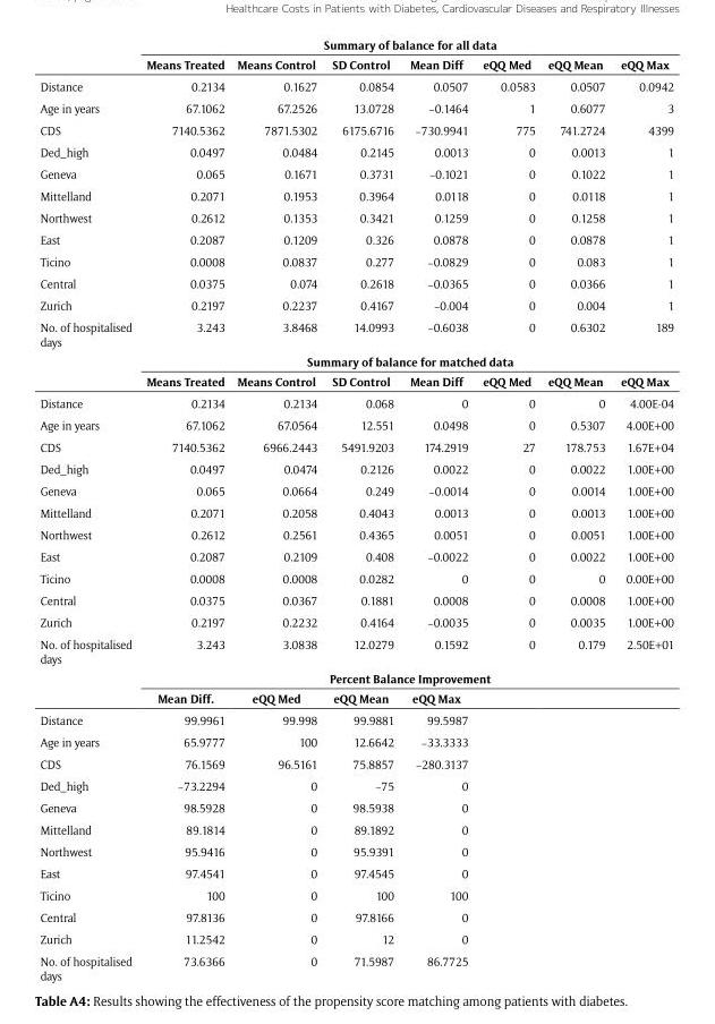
<table><thead><tr><td rowspan="2"></td><td colspan="7">Summary of balance for all data</td></tr><tr><td>Means Treated</td><td>Means Control</td><td>SD Control</td><td>Mean Diff</td><td>eQQ Med</td><td>eQQ Mean</td><td>eQQ Max</td></tr></thead><tbody><tr><td>Distance</td><td>0.2134</td><td>0.1627</td><td>0.0854</td><td>0.0507</td><td>0.0583</td><td>0.0507</td><td>0.0942</td></tr><tr><td>Age in years</td><td>67.1062</td><td>67.2526</td><td>13.0728</td><td>−0.1464</td><td>1</td><td>0.6077</td><td>3</td></tr><tr><td>CDS</td><td>7140.5362</td><td>7871.5302</td><td>6175.6716</td><td>−730.9941</td><td>775</td><td>741.2724</td><td>4399</td></tr><tr><td>Ded_high</td><td>0.0497</td><td>0.0484</td><td>0.2145</td><td>0.0013</td><td>0</td><td>0.0013</td><td>1</td></tr><tr><td>Geneva</td><td>0.065</td><td>0.1671</td><td>0.3731</td><td>−0.1021</td><td>0</td><td>0.1022</td><td>1</td></tr><tr><td>Mittelland</td><td>0.2071</td><td>0.1953</td><td>0.3964</td><td>0.0118</td><td>0</td><td>0.0118</td><td>1</td></tr><tr><td>Northwest</td><td>0.2612</td><td>0.1353</td><td>0.3421</td><td>0.1259</td><td>0</td><td>0.1258</td><td>1</td></tr><tr><td>East</td><td>0.2087</td><td>0.1209</td><td>0.326</td><td>0.0878</td><td>0</td><td>0.0878</td><td>1</td></tr><tr><td>Ticino</td><td>0.0008</td><td>0.0837</td><td>0.277</td><td>−0.0829</td><td>0</td><td>0.083</td><td>1</td></tr><tr><td>Central</td><td>0.0375</td><td>0.074</td><td>0.2618</td><td>−0.0365</td><td>0</td><td>0.0366</td><td>1</td></tr><tr><td>Zurich</td><td>0.2197</td><td>0.2237</td><td>0.4167</td><td>−0.004</td><td>0</td><td>0.004</td><td>1</td></tr><tr><td rowspan="3">No. of hospitalised days</td><td>3.243</td><td>3.8468</td><td>14.0993</td><td>−0.6038</td><td>0</td><td>0.6302</td><td>189</td></tr><tr><td colspan="7">Summary of balance for matched data</td></tr><tr><td>Means Treated</td><td>Means Control</td><td>SD Control</td><td>Mean Diff</td><td>eQQ Med</td><td>eQQ Mean</td><td>eQQ Max</td></tr><tr><td>Distance</td><td>0.2134</td><td>0.2134</td><td>0.068</td><td>0</td><td>0</td><td>0</td><td>4.00E-04</td></tr><tr><td>Age in years</td><td>67.1062</td><td>67.0564</td><td>12.551</td><td>0.0498</td><td>0</td><td>0.5307</td><td>4.00E+00</td></tr><tr><td>CDS</td><td>7140.5362</td><td>6966.2443</td><td>5491.9203</td><td>174.2919</td><td>27</td><td>178.753</td><td>1.67E+04</td></tr><tr><td>Ded_high</td><td>0.0497</td><td>0.0474</td><td>0.2126</td><td>0.0022</td><td>0</td><td>0.0022</td><td>1.00E+00</td></tr><tr><td>Geneva</td><td>0.065</td><td>0.0664</td><td>0.249</td><td>−0.0014</td><td>0</td><td>0.0014</td><td>1.00E+00</td></tr><tr><td>Mittelland</td><td>0.2071</td><td>0.2058</td><td>0.4043</td><td>0.0013</td><td>0</td><td>0.0013</td><td>1.00E+00</td></tr><tr><td>Northwest</td><td>0.2612</td><td>0.2561</td><td>0.4365</td><td>0.0051</td><td>0</td><td>0.0051</td><td>1.00E+00</td></tr><tr><td>East</td><td>0.2087</td><td>0.2109</td><td>0.408</td><td>−0.0022</td><td>0</td><td>0.0022</td><td>1.00E+00</td></tr><tr><td>Ticino</td><td>0.0008</td><td>0.0008</td><td>0.0282</td><td>0</td><td>0</td><td>0</td><td>0.00E+00</td></tr><tr><td>Central</td><td>0.0375</td><td>0.0367</td><td>0.1881</td><td>0.0008</td><td>0</td><td>0.0008</td><td>1.00E+00</td></tr><tr><td>Zurich</td><td>0.2197</td><td>0.2232</td><td>0.4164</td><td>−0.0035</td><td>0</td><td>0.0035</td><td>1.00E+00</td></tr><tr><td rowspan="3">No. of hospitalised days</td><td>3.243</td><td>3.0838</td><td>12.0279</td><td>0.1592</td><td>0</td><td>0.179</td><td>2.50E+01</td></tr><tr><td colspan="7">Percent Balance Improvement</td></tr><tr><td>Mean Diff.</td><td>eQQ Med</td><td>eQQ Mean</td><td>eQQ Max</td><td></td><td></td><td></td></tr><tr><td>Distance</td><td>99.9961</td><td>99.998</td><td>99.9881</td><td>99.5987</td><td></td><td></td><td></td></tr><tr><td>Age in years</td><td>65.9777</td><td>100</td><td>12.6642</td><td>−33.3333</td><td></td><td></td><td></td></tr><tr><td>CDS</td><td>76.1569</td><td>96.5161</td><td>75.8857</td><td>−280.3137</td><td></td><td></td><td></td></tr><tr><td>Ded_high</td><td>−73.2294</td><td>0</td><td>−75</td><td>0</td><td></td><td></td><td></td></tr><tr><td>Geneva</td><td>98.5928</td><td>0</td><td>98.5938</td><td>0</td><td></td><td></td><td></td></tr><tr><td>Mittelland</td><td>89.1814</td><td>0</td><td>89.1892</td><td>0</td><td></td><td></td><td></td></tr><tr><td>Northwest</td><td>95.9416</td><td>0</td><td>95.9391</td><td>0</td><td></td><td></td><td></td></tr><tr><td>East</td><td>97.4541</td><td>0</td><td>97.4545</td><td>0</td><td></td><td></td><td></td></tr><tr><td>Ticino</td><td>100</td><td>0</td><td>100</td><td>100</td><td></td><td></td><td></td></tr><tr><td>Central</td><td>97.8136</td><td>0</td><td>97.8166</td><td>0</td><td></td><td></td><td></td></tr><tr><td>Zurich</td><td>11.2542</td><td>0</td><td>12</td><td>0</td><td></td><td></td><td></td></tr><tr><td>No. of hospitalised days</td><td>73.6366</td><td>0</td><td>71.5987</td><td>86.7725</td><td></td><td></td><td></td></tr></tbody></table>